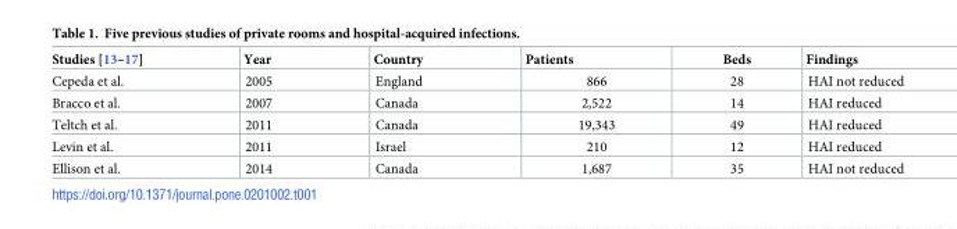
<table><thead><tr><td>Studies [13–17]</td><td>Year</td><td>Country</td><td>Patients</td><td>Beds</td><td>Findings</td></tr></thead><tbody><tr><td>Cepeda et al.</td><td>2005</td><td>England</td><td>866</td><td>28</td><td>HAI not reduced</td></tr><tr><td>Bracco et al.</td><td>2007</td><td>Canada</td><td>2,522</td><td>14</td><td>HAI reduced</td></tr><tr><td>Teltch et al.</td><td>2011</td><td>Canada</td><td>19,343</td><td>49</td><td>HAI reduced</td></tr><tr><td>Levin et al.</td><td>2011</td><td>Israel</td><td>210</td><td>12</td><td>HAI reduced</td></tr><tr><td>Ellison et al.</td><td>2014</td><td>Canada</td><td>1,687</td><td>35</td><td>HAI not reduced</td></tr></tbody></table>